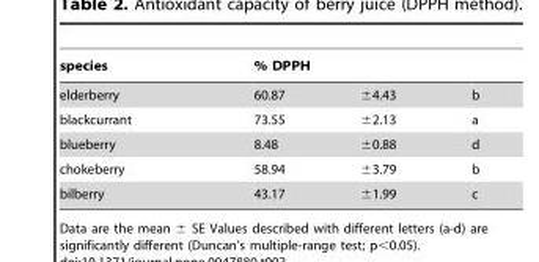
<table><thead><tr><td rowspan="2">species elderberry</td><td colspan="2">% DPPH</td><td rowspan="2">b</td></tr><tr><td>60.87</td><td>±4.43</td></tr></thead><tbody><tr><td>blackcurrant</td><td>73.55</td><td>±2.13</td><td>a</td></tr><tr><td>blueberry</td><td>8.48</td><td>±0.88</td><td>d</td></tr><tr><td>chokeberry</td><td>58.94</td><td>±3.79</td><td>b</td></tr><tr><td>bilberry</td><td>43.17</td><td>±1.99</td><td>c</td></tr></tbody></table>